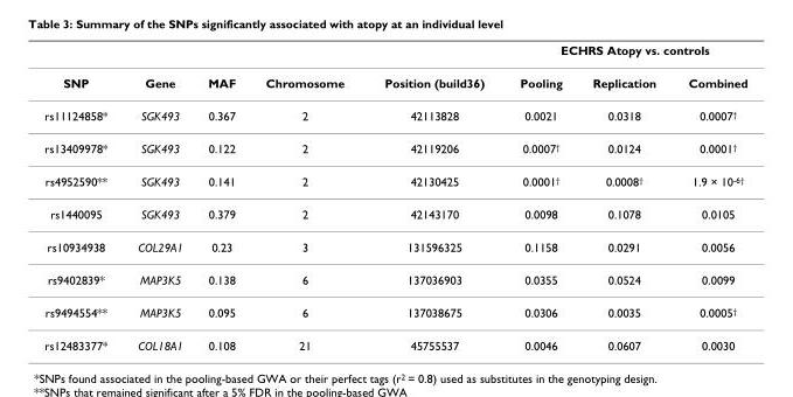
<table><thead><tr><td rowspan="2">SNP</td><td rowspan="2">Gene</td><td rowspan="2">MAF</td><td rowspan="2">Chromosome</td><td rowspan="2">Position (build36)</td><td colspan="3">ECHRS Atopy vs. controls</td></tr><tr><td>Pooling</td><td>Replication</td><td>Combined</td></tr></thead><tbody><tr><td>rs11124858*</td><td>SGK493</td><td>0.367</td><td>2</td><td>42113828</td><td>0.0021</td><td>0.0318</td><td>0.0007<sup>†</sup></td></tr><tr><td>rs13409978*</td><td>SGK493</td><td>0.122</td><td>2</td><td>42119206</td><td>0.0007<sup>†</sup></td><td>0.0124</td><td>0.0001<sup>†</sup></td></tr><tr><td>rs4952590**</td><td>SGK493</td><td>0.141</td><td>2</td><td>42130425</td><td>0.0001<sup>†</sup></td><td>0.0008<sup>†</sup></td><td>1.9 × 10<sup>-6†</sup></td></tr><tr><td>rs1440095</td><td>SGK493</td><td>0.379</td><td>2</td><td>42143170</td><td>0.0098</td><td>0.1078</td><td>0.0105</td></tr><tr><td>rs10934938</td><td>COL29A1</td><td>0.23</td><td>3</td><td>131596325</td><td>0.1158</td><td>0.0291</td><td>0.0056</td></tr><tr><td>rs9402839*</td><td>MAP3K5</td><td>0.138</td><td>6</td><td>137036903</td><td>0.0355</td><td>0.0524</td><td>0.0099</td></tr><tr><td>rs9494554**</td><td>MAP3K5</td><td>0.095</td><td>6</td><td>137038675</td><td>0.0306</td><td>0.0035</td><td>0.0005<sup>†</sup></td></tr><tr><td>rs12483377*</td><td>COL18A1</td><td>0.108</td><td>21</td><td>45755537</td><td>0.0046</td><td>0.0607</td><td>0.0030</td></tr></tbody></table>